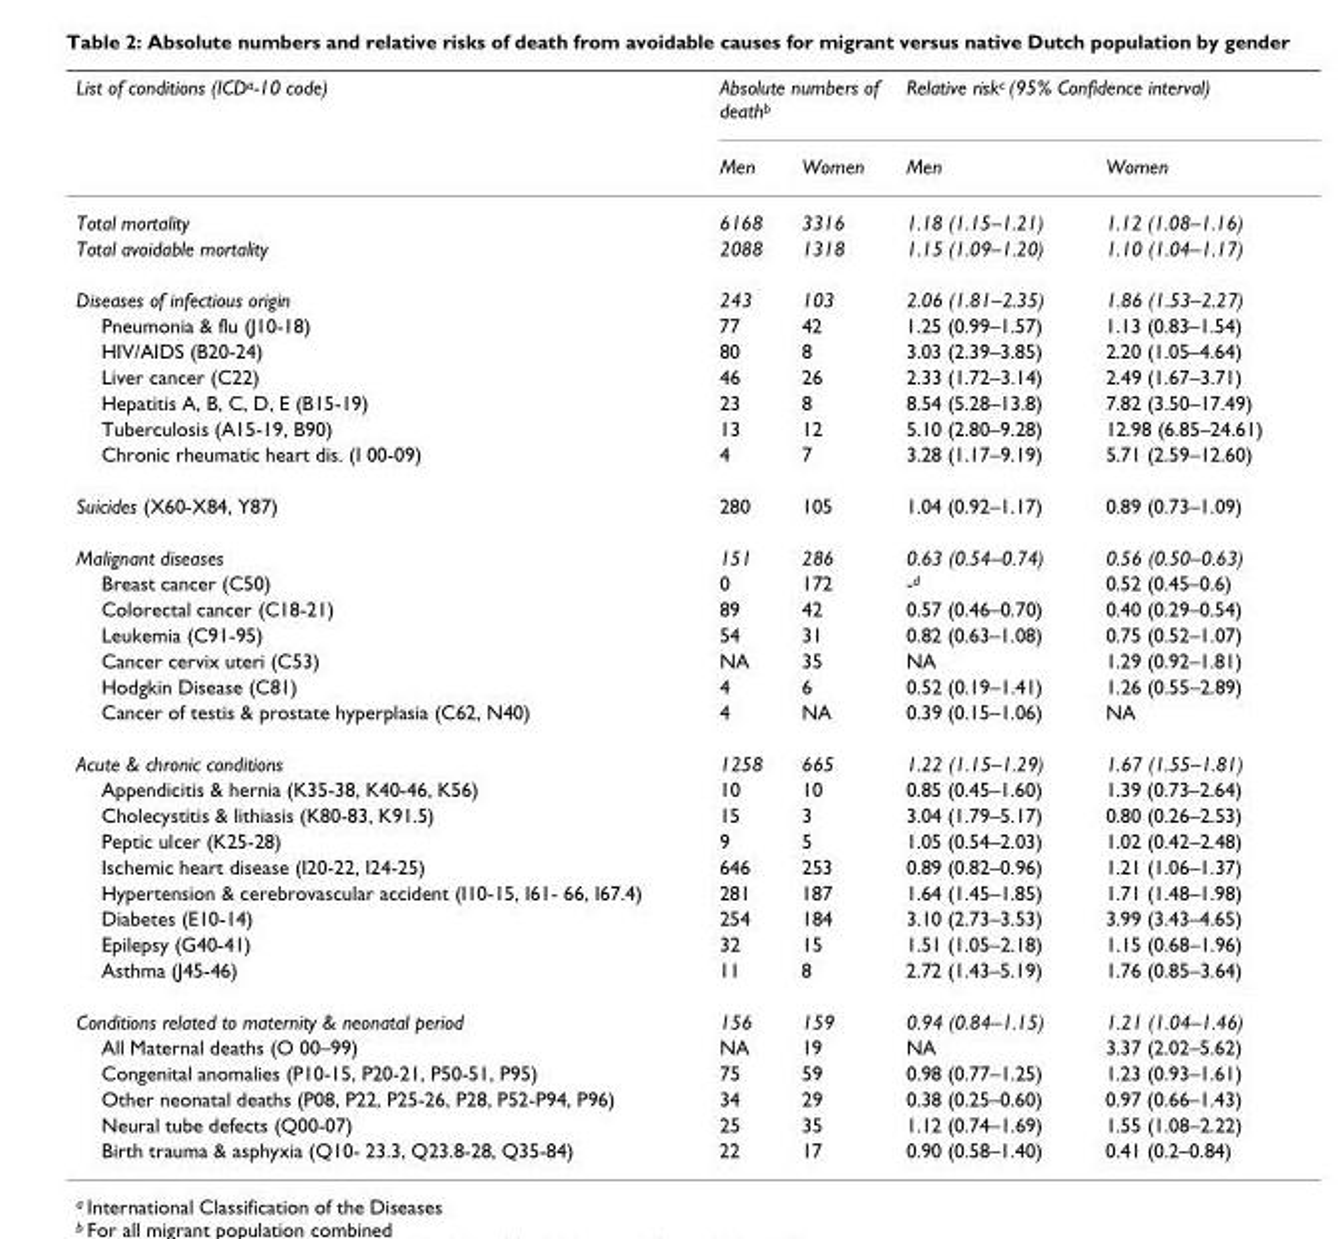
<table><thead><tr><td rowspan="2">List of conditions (ICDa-10 code)</td><td colspan="2">Absolute numbers of deathb</td><td colspan="2">Relative riskc (95% Confidence interval)</td></tr><tr><td>Men</td><td>Women</td><td>Men</td><td>Women</td></tr></thead><tbody><tr><td>Total mortality</td><td>6168</td><td>3316</td><td>1.18 (1.15–1.21)</td><td>1.12 (1.08–1.16)</td></tr><tr><td>Total avoidable mortality</td><td>2088</td><td>1318</td><td>1.15 (1.09–1.20)</td><td>1.10 (1.04–1.17)</td></tr><tr><td>Diseases of infectious origin</td><td>243</td><td>103</td><td>2.06 (1.81–2.35)</td><td>1.86 (1.53–2.27)</td></tr><tr><td>Pneumonia &amp; flu (J10-18)</td><td>77</td><td>42</td><td>1.25 (0.99–1.57)</td><td>1.13 (0.83–1.54)</td></tr><tr><td>HIV/AIDS (B20-24)</td><td>80</td><td>8</td><td>3.03 (2.39–3.85)</td><td>2.20 (1.05–4.64)</td></tr><tr><td>Liver cancer (C22)</td><td>46</td><td>26</td><td>2.33 (1.72–3.14)</td><td>2.49 (1.67–3.71)</td></tr><tr><td>Hepatitis A, B, C, D, E (B15-19)</td><td>23</td><td>8</td><td>8.54 (5.28–13.8)</td><td>7.82 (3.50–17.49)</td></tr><tr><td>Tuberculosis (A15-19, B90)</td><td>13</td><td>12</td><td>5.10 (2.80–9.28)</td><td>12.98 (6.85–24.61)</td></tr><tr><td>Chronic rheumatic heart dis. (I 00-09)</td><td>4</td><td>7</td><td>3.28 (1.17–9.19)</td><td>5.71 (2.59–12.60)</td></tr><tr><td>Suicides (X60-X84, Y87)</td><td>280</td><td>105</td><td>1.04 (0.92–1.17)</td><td>0.89 (0.73–1.09)</td></tr><tr><td>Malignant diseases</td><td>151</td><td>286</td><td>0.63 (0.54–0.74)</td><td>0.56 (0.50–0.63)</td></tr><tr><td>Breast cancer (C50)</td><td>0</td><td>172</td><td>-d</td><td>0.52 (0.45–0.6)</td></tr><tr><td>Colorectal cancer (C18-21)</td><td>89</td><td>42</td><td>0.57 (0.46–0.70)</td><td>0.40 (0.29–0.54)</td></tr><tr><td>Leukemia (C91-95)</td><td>54</td><td>31</td><td>0.82 (0.63–1.08)</td><td>0.75 (0.52–1.07)</td></tr><tr><td>Cancer cervix uteri (C53)</td><td>NA</td><td>35</td><td>NA</td><td>1.29 (0.92–1.81)</td></tr><tr><td>Hodgkin Disease (C81)</td><td>4</td><td>6</td><td>0.52 (0.19–1.41)</td><td>1.26 (0.55–2.89)</td></tr><tr><td>Cancer of testis &amp; prostate hyperplasia (C62, N40)</td><td>4</td><td>NA</td><td>0.39 (0.15–1.06)</td><td>NA</td></tr><tr><td>Acute &amp; chronic conditions</td><td>1258</td><td>665</td><td>1.22 (1.15–1.29)</td><td>1.67 (1.55–1.81)</td></tr><tr><td>Appendicitis &amp; hernia (K35-38, K40-46, K56)</td><td>10</td><td>10</td><td>0.85 (0.45–1.60)</td><td>1.39 (0.73–2.64)</td></tr><tr><td>Cholecystitis &amp; lithiasis (K80-83, K91.5)</td><td>15</td><td>3</td><td>3.04 (1.79–5.17)</td><td>0.80 (0.26–2.53)</td></tr><tr><td>Peptic ulcer (K25-28)</td><td>9</td><td>5</td><td>1.05 (0.54–2.03)</td><td>1.02 (0.42–2.48)</td></tr><tr><td>Ischemic heart disease (I20-22, I24-25)</td><td>646</td><td>253</td><td>0.89 (0.82–0.96)</td><td>1.21 (1.06–1.37)</td></tr><tr><td>Hypertension &amp; cerebrovascular accident (I10-15, I61- 66, I67.4)</td><td>281</td><td>187</td><td>1.64 (1.45–1.85)</td><td>1.71 (1.48–1.98)</td></tr><tr><td>Diabetes (E10-14)</td><td>254</td><td>184</td><td>3.10 (2.73–3.53)</td><td>3.99 (3.43–4.65)</td></tr><tr><td>Epilepsy (G40-41)</td><td>32</td><td>15</td><td>1.51 (1.05–2.18)</td><td>1.15 (0.68–1.96)</td></tr><tr><td>Asthma (J45-46)</td><td>11</td><td>8</td><td>2.72 (1.43–5.19)</td><td>1.76 (0.85–3.64)</td></tr><tr><td>Conditions related to maternity &amp; neonatal period</td><td>156</td><td>159</td><td>0.94 (0.84–1.15)</td><td>1.21 (1.04–1.46)</td></tr><tr><td>All Maternal deaths (O 00–99)</td><td>NA</td><td>19</td><td>NA</td><td>3.37 (2.02–5.62)</td></tr><tr><td>Congenital anomalies (P10-15, P20-21, P50-51, P95)</td><td>75</td><td>59</td><td>0.98 (0.77–1.25)</td><td>1.23 (0.93–1.61)</td></tr><tr><td>Other neonatal deaths (P08, P22, P25-26, P28, P52-P94, P96)</td><td>34</td><td>29</td><td>0.38 (0.25–0.60)</td><td>0.97 (0.66–1.43)</td></tr><tr><td>Neural tube defects (Q00-07)</td><td>25</td><td>35</td><td>1.12 (0.74–1.69)</td><td>1.55 (1.08–2.22)</td></tr><tr><td>Birth trauma &amp; asphyxia (Q10- 23.3, Q23.8-28, Q35-84)</td><td>22</td><td>17</td><td>0.90 (0.58–1.40)</td><td>0.41 (0.2–0.84)</td></tr></tbody></table>